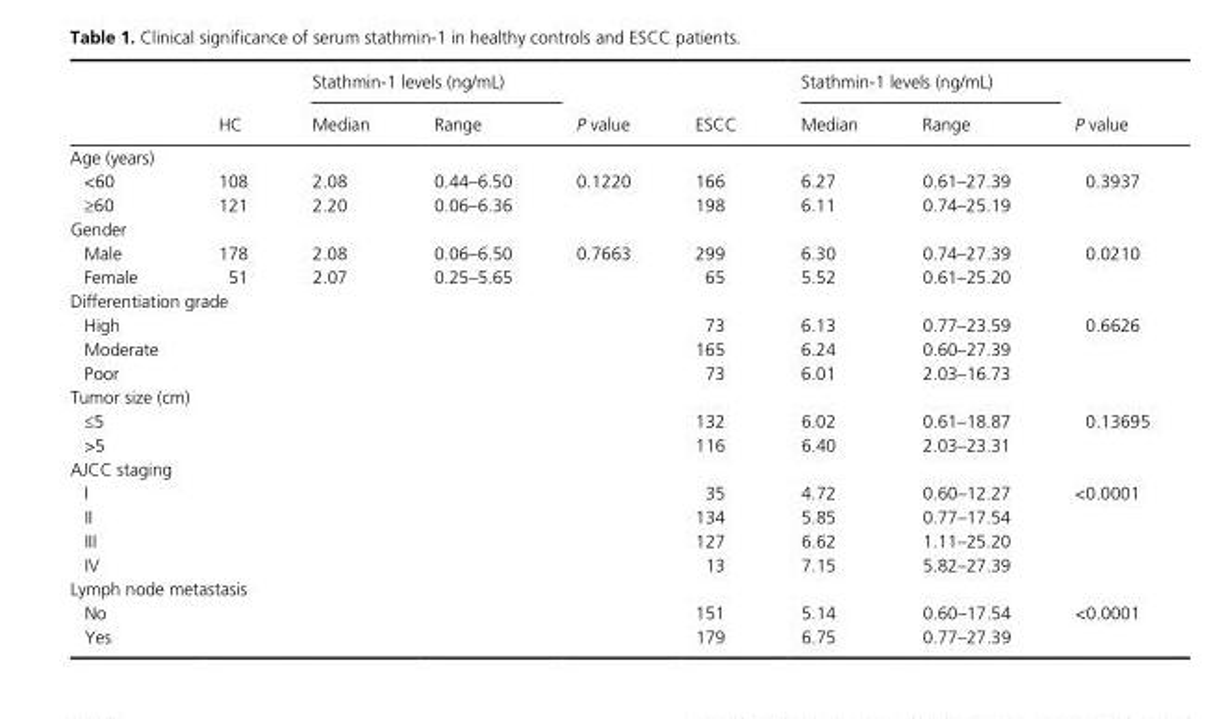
<table><thead><tr><td rowspan="2"></td><td rowspan="2">HC</td><td colspan="2">Stathmin- 1 levels (ng/mL)</td><td rowspan="2">P value</td><td rowspan="2">ESCC</td><td colspan="2">Stathmin- 1 levels (ng/mL)</td><td rowspan="2">P value</td></tr><tr><td>Median</td><td>Range</td><td>Median</td><td>Range</td></tr></thead><tbody><tr><td colspan="9">Age (years)</td></tr><tr><td>&lt;60</td><td>108</td><td>2.08</td><td>0.44–6.50</td><td rowspan="2">0.1220</td><td>166</td><td>6.27</td><td>0.61–27.39</td><td rowspan="2">0.3937</td></tr><tr><td>≥60</td><td>121</td><td>2.20</td><td>0.06–6.36</td><td>198</td><td>6.11</td><td>0.74–25.19</td></tr><tr><td colspan="9">Gender</td></tr><tr><td>Male</td><td>178</td><td>2.08</td><td>0.06–6.50</td><td rowspan="2">0.7663</td><td>299</td><td>6.30</td><td>0.74–27.39</td><td rowspan="2">0.0210</td></tr><tr><td>Female</td><td>51</td><td>2.07</td><td>0.25–5.65</td><td>65</td><td>5.52</td><td>0.61–25.20</td></tr><tr><td colspan="9">Differentiation grade</td></tr><tr><td>High</td><td rowspan="3"></td><td rowspan="3"></td><td rowspan="3"></td><td rowspan="3"></td><td>73</td><td>6.13</td><td>0.77–23.59</td><td rowspan="3">0.6626</td></tr><tr><td>Moderate</td><td>165</td><td>6.24</td><td>0.60–27.39</td></tr><tr><td>Poor</td><td>73</td><td>6.01</td><td>2.03–16.73</td></tr><tr><td colspan="9">Tumor size (cm)</td></tr><tr><td>≤5</td><td rowspan="2"></td><td rowspan="2"></td><td rowspan="2"></td><td rowspan="2"></td><td>132</td><td>6.02</td><td>0.61–18.87</td><td>0.13695</td></tr><tr><td>&gt;5</td><td>116</td><td>6.40</td><td>2.03–23.31</td><td></td></tr><tr><td colspan="9">AJCC staging</td></tr><tr><td>I</td><td rowspan="4"></td><td rowspan="4"></td><td rowspan="4"></td><td rowspan="4"></td><td>35</td><td>4.72</td><td>0.60–12.27</td><td rowspan="4">&lt;0.0001</td></tr><tr><td>II</td><td>134</td><td>5.85</td><td>0.77–17.54</td></tr><tr><td>III</td><td>127</td><td>6.62</td><td>1.11–25.20</td></tr><tr><td>IV</td><td>13</td><td>7.15</td><td>5.82–27.39</td></tr><tr><td colspan="9">Lymph node metastasis</td></tr><tr><td>No</td><td rowspan="2"></td><td rowspan="2"></td><td rowspan="2"></td><td rowspan="2"></td><td>151</td><td>5.14</td><td>0.60–17.54</td><td rowspan="2">&lt;0.0001</td></tr><tr><td>Yes</td><td>179</td><td>6.75</td><td>0.77–27.39</td></tr></tbody></table>